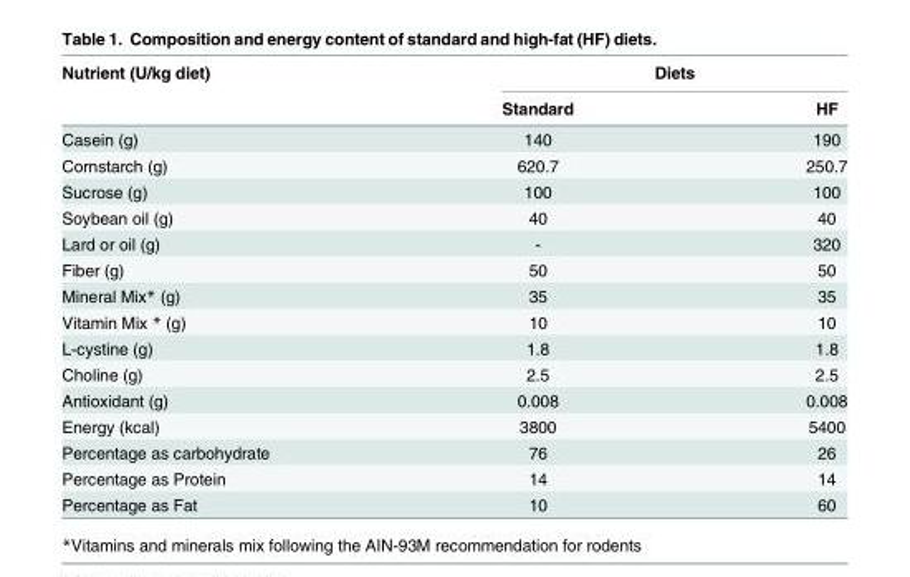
<table><thead><tr><td rowspan="2">Nutrient (U/kg diet)</td><td colspan="2">Diets</td></tr><tr><td>Standard</td><td>HF</td></tr></thead><tbody><tr><td>Casein (g)</td><td>140</td><td>190</td></tr><tr><td>Cornstarch (g)</td><td>620.7</td><td>250.7</td></tr><tr><td>Sucrose (g)</td><td>100</td><td>100</td></tr><tr><td>Soybean oil (g)</td><td>40</td><td>40</td></tr><tr><td>Lard or oil (g)</td><td>-</td><td>320</td></tr><tr><td>Fiber (g)</td><td>50</td><td>50</td></tr><tr><td>Mineral Mix* (g)</td><td>35</td><td>35</td></tr><tr><td>Vitamin Mix * (g)</td><td>10</td><td>10</td></tr><tr><td>L-cystine (g)</td><td>1.8</td><td>1.8</td></tr><tr><td>Choline (g)</td><td>2.5</td><td>2.5</td></tr><tr><td>Antioxidant (g)</td><td>0.008</td><td>0.008</td></tr><tr><td>Energy (kcal)</td><td>3800</td><td>5400</td></tr><tr><td>Percentage as carbohydrate</td><td>76</td><td>26</td></tr><tr><td>Percentage as Protein</td><td>14</td><td>14</td></tr><tr><td>Percentage as Fat</td><td>10</td><td>60</td></tr></tbody></table>